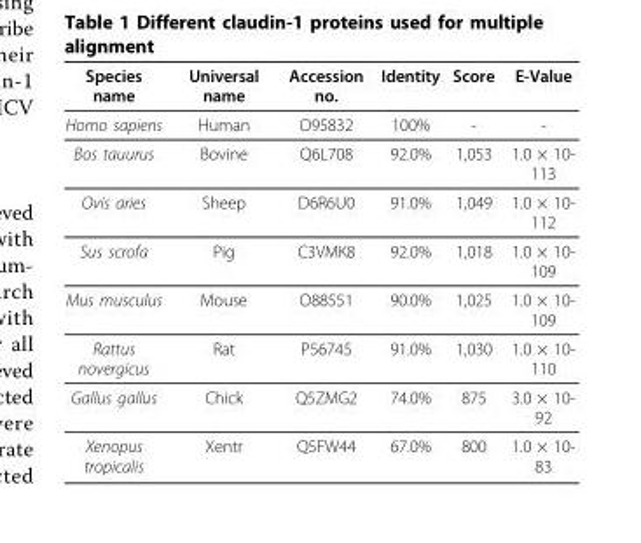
<table><thead><tr><td>Species name</td><td>Universal name</td><td>Accession no.</td><td>Identity</td><td>Score</td><td>E-Value</td></tr></thead><tbody><tr><td>Homo sapiens</td><td>Human</td><td>O95832</td><td>100%</td><td>-</td><td>-</td></tr><tr><td>Bos tauurus</td><td>Bovine</td><td>Q6L708</td><td>92.0%</td><td>1,053</td><td>1.0 × 10- 113</td></tr><tr><td>Ovis aries</td><td>Sheep</td><td>D6R6U0</td><td>91.0%</td><td>1,049</td><td>1.0 × 10- 112</td></tr><tr><td>Sus scrofa</td><td>Pig</td><td>C3VMK8</td><td>92.0%</td><td>1,018</td><td>1.0 × 10- 109</td></tr><tr><td>Mus musculus</td><td>Mouse</td><td>O88551</td><td>90.0%</td><td>1,025</td><td>1.0 × 10- 109</td></tr><tr><td>Rattus novergicus</td><td>Rat</td><td>P56745</td><td>91.0%</td><td>1,030</td><td>1.0 × 10- 110</td></tr><tr><td>Gallus gallus</td><td>Chick</td><td>Q5ZMG2</td><td>74.0%</td><td>875</td><td>3.0 × 10- 92</td></tr><tr><td>Xenopus tropicalis</td><td>Xentr</td><td>Q5FW44</td><td>67.0%</td><td>800</td><td>1.0 × 10- 83</td></tr></tbody></table>